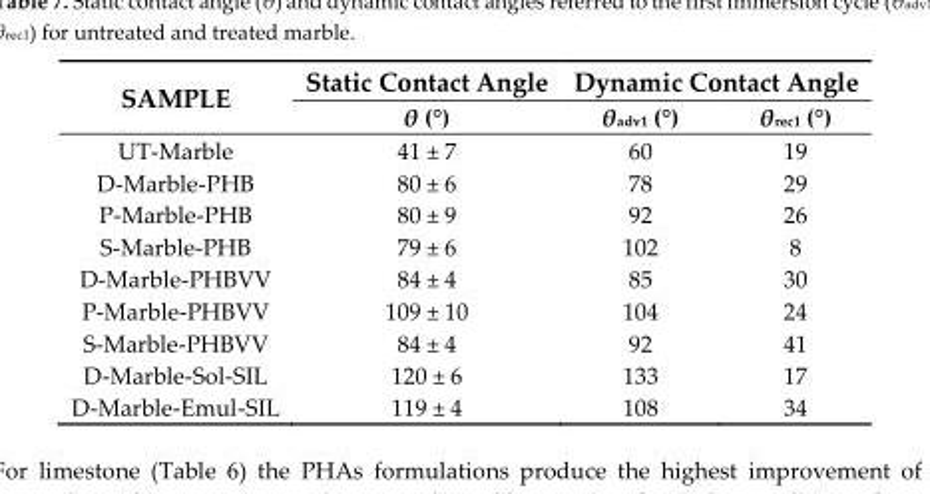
<table><thead><tr><td rowspan="2">SAMPLE</td><td rowspan="2">Static Contact Angle θ (°)</td><td colspan="2">Dynamic Contact Angle</td></tr><tr><td>θ<sub>adv1</sub> (°)</td><td>θ<sub>rec1</sub> (°)</td></tr></thead><tbody><tr><td>UT-Marble</td><td>41 ± 7</td><td>60</td><td>19</td></tr><tr><td>D-Marble-PHB</td><td>80 ± 6</td><td>78</td><td>29</td></tr><tr><td>P-Marble-PHB</td><td>80 ± 9</td><td>92</td><td>26</td></tr><tr><td>S-Marble-PHB</td><td>79 ± 6</td><td>102</td><td>8</td></tr><tr><td>D-Marble-PHBVV</td><td>84 ± 4</td><td>85</td><td>30</td></tr><tr><td>P-Marble-PHBVV</td><td>109 ± 10</td><td>104</td><td>24</td></tr><tr><td>S-Marble-PHBVV</td><td>84 ± 4</td><td>92</td><td>41</td></tr><tr><td>D-Marble-Sol-SIL</td><td>120 ± 6</td><td>133</td><td>17</td></tr><tr><td>D-Marble-Emul-SIL</td><td>119 ± 4</td><td>108</td><td>34</td></tr></tbody></table>